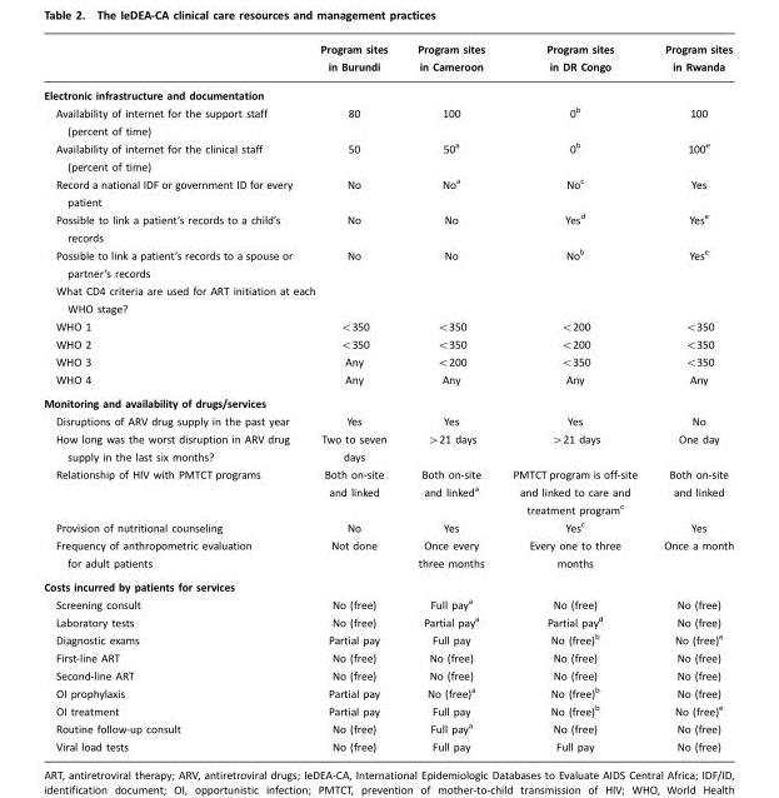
<table><thead><tr><td></td><td>Program sites in Burundi</td><td>Program sites in Cameroon</td><td>Program sites in DR Congo</td><td>Program sites in Rwanda</td></tr></thead><tbody><tr><td colspan="5">Electronic infrastructure and documentation</td></tr><tr><td>Availability of internet for the support staff (percent of time)</td><td>80</td><td>100</td><td>0<sup>b</sup></td><td>100</td></tr><tr><td>Availability of internet for the clinical staff (percent of time)</td><td>50</td><td>50<sup>a</sup></td><td>0<sup>b</sup></td><td>100<sup>e</sup></td></tr><tr><td>Record a national IDF or government ID for every patient</td><td>No</td><td>No<sup>a</sup></td><td>No<sup>c</sup></td><td>Yes</td></tr><tr><td>Possible to link a patient’s records to a child’s records</td><td>No</td><td>No</td><td>Yes<sup>d</sup></td><td>Yes<sup>e</sup></td></tr><tr><td>Possible to link a patient’s records to a spouse or partner’s records</td><td>No</td><td>No</td><td>No<sup>b</sup></td><td>Yes<sup>e</sup></td></tr><tr><td colspan="5">What CD4 criteria are used for ART initiation at each WHO stage?</td></tr><tr><td>WHO 1</td><td>&lt;350</td><td>&lt;350</td><td>&lt;200</td><td>&lt;350</td></tr><tr><td>WHO 2</td><td>&lt;350</td><td>&lt;350</td><td>&lt;200</td><td>&lt;350</td></tr><tr><td>WHO 3</td><td>Any</td><td>&lt;200</td><td>&lt;350</td><td>&lt;350</td></tr><tr><td>WHO 4</td><td>Any</td><td>Any</td><td>Any</td><td>Any</td></tr><tr><td colspan="5">Monitoring and availability of drugs/services</td></tr><tr><td>Disruptions of ARV drug supply in the past year</td><td>Yes</td><td>Yes</td><td>Yes</td><td>No</td></tr><tr><td>How long was the worst disruption in ARV drug supply in the last six months?</td><td>Two to seven days</td><td>&gt;21 days</td><td>&gt;21 days</td><td>One day</td></tr><tr><td>Relationship of HIV with PMTCT programs</td><td>Both on-site and linked</td><td>Both on-site and linked<sup>a</sup></td><td>PMTCT program is off-site and linked to care and treatment program<sup>c</sup></td><td>Both on-site and linked</td></tr><tr><td>Provision of nutritional counseling</td><td>No</td><td>Yes</td><td>Yes<sup>c</sup></td><td>Yes</td></tr><tr><td>Frequency of anthropometric evaluation for adult patients</td><td>Not done</td><td>Once every three months</td><td>Every one to three months</td><td>Once a month</td></tr><tr><td colspan="5">Costs incurred by patients for services</td></tr><tr><td>Screening consult</td><td>No (free)</td><td>Full pay<sup>a</sup></td><td>No (free)</td><td>No (free)</td></tr><tr><td>Laboratory tests</td><td>No (free)</td><td>Partial pay<sup>a</sup></td><td>Partial pay<sup>d</sup></td><td>No (free)</td></tr><tr><td>Diagnostic exams</td><td>Partial pay</td><td>Full pay</td><td>No (free)<sup>b</sup></td><td>No (free)<sup>e</sup></td></tr><tr><td>First-line ART</td><td>No (free)</td><td>No (free)</td><td>No (free)</td><td>No (free)</td></tr><tr><td>Second-line ART</td><td>No (free)</td><td>No (free)</td><td>No (free)</td><td>No (free)</td></tr><tr><td>OI prophylaxis</td><td>Partial pay</td><td>No (free)<sup>a</sup></td><td>No (free)<sup>b</sup></td><td>No (free)</td></tr><tr><td>OI treatment</td><td>Partial pay</td><td>Full pay</td><td>No (free)<sup>b</sup></td><td>No (free)<sup>e</sup></td></tr><tr><td>Routine follow-up consult</td><td>No (free)</td><td>Full pay<sup>a</sup></td><td>No (free)</td><td>No (free)</td></tr><tr><td>Viral load tests</td><td>No (free)</td><td>Full pay</td><td>Full pay</td><td>No (free)</td></tr></tbody></table>